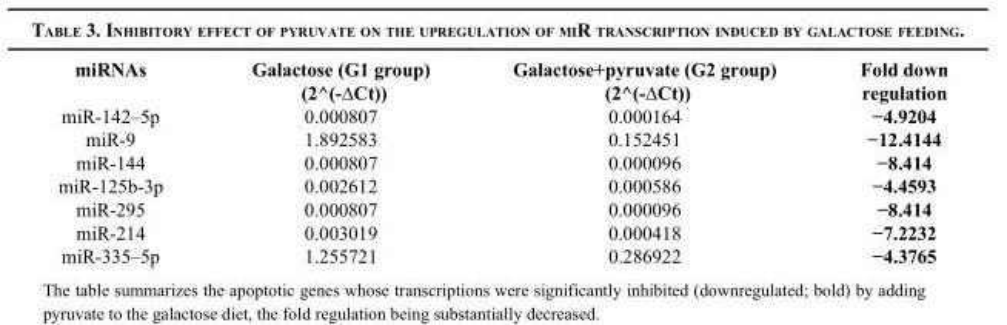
<table><thead><tr><td>miRNAs</td><td>Galactose (G1 group) (2^(-∆Ct))</td><td>Galactose+pyruvate (G2 group) (2^(-∆Ct))</td><td>Fold down regulation</td></tr></thead><tbody><tr><td>miR-142–5p</td><td>0.000807</td><td>0.000164</td><td>−4.9204</td></tr><tr><td>miR-9</td><td>1.892583</td><td>0.152451</td><td>−12.4144</td></tr><tr><td>miR-144</td><td>0.000807</td><td>0.000096</td><td>−8.414</td></tr><tr><td>miR-125b-3p</td><td>0.002612</td><td>0.000586</td><td>−4.4593</td></tr><tr><td>miR-295</td><td>0.000807</td><td>0.000096</td><td>−8.414</td></tr><tr><td>miR-214</td><td>0.003019</td><td>0.000418</td><td>−7.2232</td></tr><tr><td>miR-335–5p</td><td>1.255721</td><td>0.286922</td><td>−4.3765</td></tr></tbody></table>